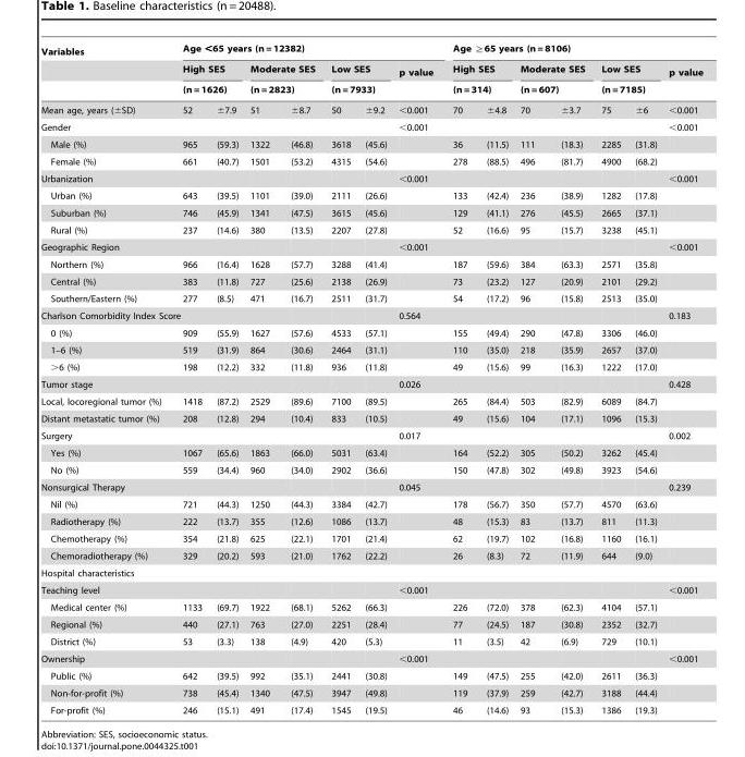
<table><thead><tr><td rowspan="4">Variables Mean age, years (±SD)</td><td colspan="7">Age &lt;65 years (n = 12382)</td><td colspan="7">Age ≧65 years (n = 8106)</td></tr><tr><td rowspan="2" colspan="2">High SES (n = 1626)</td><td rowspan="2" colspan="2">Moderate SES (n = 2823)</td><td rowspan="2" colspan="2">Low SES (n = 7933)</td><td rowspan="3">p value &lt;0.001</td><td rowspan="2" colspan="2">High SES (n = 314)</td><td rowspan="2" colspan="2">Moderate SES (n = 607)</td><td rowspan="2" colspan="2">Low SES (n = 7185)</td><td rowspan="3">p value &lt;0.001</td></tr><tr></tr><tr><td>52</td><td>±7.9</td><td>51</td><td>±8.7</td><td>50</td><td>±9.2</td><td>70</td><td>±4.8</td><td>70</td><td>±3.7</td><td>75</td><td>±6</td></tr></thead><tbody><tr><td>Gender</td><td></td><td></td><td></td><td></td><td></td><td></td><td>&lt;0.001</td><td></td><td></td><td></td><td></td><td></td><td></td><td>&lt;0.001</td></tr><tr><td>Male (%)</td><td>965</td><td>(59.3)</td><td>1322</td><td>(46.8)</td><td>3618</td><td>(45.6)</td><td></td><td>36</td><td>(11.5)</td><td>111</td><td>(18.3)</td><td>2285</td><td>(31.8)</td><td></td></tr><tr><td>Female (%)</td><td>661</td><td>(40.7)</td><td>1501</td><td>(53.2)</td><td>4315</td><td>(54.6)</td><td></td><td>278</td><td>(88.5)</td><td>496</td><td>(81.7)</td><td>4900</td><td>(68.2)</td><td></td></tr><tr><td>Urbanization</td><td></td><td></td><td></td><td></td><td></td><td></td><td>&lt;0.001</td><td></td><td></td><td></td><td></td><td></td><td></td><td>&lt;0.001</td></tr><tr><td>Urban (%)</td><td>643</td><td>(39.5)</td><td>1101</td><td>(39.0)</td><td>2111</td><td>(26.6)</td><td></td><td>133</td><td>(42.4)</td><td>236</td><td>(38.9)</td><td>1282</td><td>(17.8)</td><td></td></tr><tr><td>Suburban (%)</td><td>746</td><td>(45.9)</td><td>1341</td><td>(47.5)</td><td>3615</td><td>(45.6)</td><td></td><td>129</td><td>(41.1)</td><td>276</td><td>(45.5)</td><td>2665</td><td>(37.1)</td><td></td></tr><tr><td>Rural (%)</td><td>237</td><td>(14.6)</td><td>380</td><td>(13.5)</td><td>2207</td><td>(27.8)</td><td></td><td>52</td><td>(16.6)</td><td>95</td><td>(15.7)</td><td>3238</td><td>(45.1)</td><td></td></tr><tr><td>Geographic Region</td><td></td><td></td><td></td><td></td><td></td><td></td><td>&lt;0.001</td><td></td><td></td><td></td><td></td><td></td><td></td><td>&lt;0.001</td></tr><tr><td>Northern (%)</td><td>966</td><td>(16.4)</td><td>1628</td><td>(57.7)</td><td>3288</td><td>(41.4)</td><td></td><td>187</td><td>(59.6)</td><td>384</td><td>(63.3)</td><td>2571</td><td>(35.8)</td><td></td></tr><tr><td>Central (%)</td><td>383</td><td>(11.8)</td><td>727</td><td>(25.6)</td><td>2138</td><td>(26.9)</td><td></td><td>73</td><td>(23.2)</td><td>127</td><td>(20.9)</td><td>2101</td><td>(29.2)</td><td></td></tr><tr><td>Southern/Eastern (%)</td><td>277</td><td>(8.5)</td><td>471</td><td>(16.7)</td><td>2511</td><td>(31.7)</td><td></td><td>54</td><td>(17.2)</td><td>96</td><td>(15.8)</td><td>2513</td><td>(35.0)</td><td></td></tr><tr><td>Charlson Comorbidity Index Score</td><td></td><td></td><td></td><td></td><td></td><td></td><td>0.564</td><td></td><td></td><td></td><td></td><td></td><td></td><td>0.183</td></tr><tr><td>0 (%)</td><td>909</td><td>(55.9)</td><td>1627</td><td>(57.6)</td><td>4533</td><td>(57.1)</td><td></td><td>155</td><td>(49.4)</td><td>290</td><td>(47.8)</td><td>3306</td><td>(46.0)</td><td></td></tr><tr><td>1–6 (%)</td><td>519</td><td>(31.9)</td><td>864</td><td>(30.6)</td><td>2464</td><td>(31.1)</td><td></td><td>110</td><td>(35.0)</td><td>218</td><td>(35.9)</td><td>2657</td><td>(37.0)</td><td></td></tr><tr><td>&gt;6 (%)</td><td>198</td><td>(12.2)</td><td>332</td><td>(11.8)</td><td>936</td><td>(11.8)</td><td></td><td>49</td><td>(15.6)</td><td>99</td><td>(16.3)</td><td>1222</td><td>(17.0)</td><td></td></tr><tr><td>Tumor stage</td><td></td><td></td><td></td><td></td><td></td><td></td><td>0.026</td><td></td><td></td><td></td><td></td><td></td><td></td><td>0.428</td></tr><tr><td>Local, locoregional tumor (%)</td><td>1418</td><td>(87.2)</td><td>2529</td><td>(89.6)</td><td>7100</td><td>(89.5)</td><td></td><td>265</td><td>(84.4)</td><td>503</td><td>(82.9)</td><td>6089</td><td>(84.7)</td><td></td></tr><tr><td>Distant metastatic tumor (%)</td><td>208</td><td>(12.8)</td><td>294</td><td>(10.4)</td><td>833</td><td>(10.5)</td><td></td><td>49</td><td>(15.6)</td><td>104</td><td>(17.1)</td><td>1096</td><td>(15.3)</td><td></td></tr><tr><td>Surgery</td><td></td><td></td><td></td><td></td><td></td><td></td><td>0.017</td><td></td><td></td><td></td><td></td><td></td><td></td><td>0.002</td></tr><tr><td>Yes (%)</td><td>1067</td><td>(65.6)</td><td>1863</td><td>(66.0)</td><td>5031</td><td>(63.4)</td><td></td><td>164</td><td>(52.2)</td><td>305</td><td>(50.2)</td><td>3262</td><td>(45.4)</td><td></td></tr><tr><td>No (%)</td><td>559</td><td>(34.4)</td><td>960</td><td>(34.0)</td><td>2902</td><td>(36.6)</td><td></td><td>150</td><td>(47.8)</td><td>302</td><td>(49.8)</td><td>3923</td><td>(54.6)</td><td></td></tr><tr><td>Nonsurgical Therapy</td><td></td><td></td><td></td><td></td><td></td><td></td><td>0.045</td><td></td><td></td><td></td><td></td><td></td><td></td><td>0.239</td></tr><tr><td>Nil (%)</td><td>721</td><td>(44.3)</td><td>1250</td><td>(44.3)</td><td>3384</td><td>(42.7)</td><td></td><td>178</td><td>(56.7)</td><td>350</td><td>(57.7)</td><td>4570</td><td>(63.6)</td><td></td></tr><tr><td>Radiotherapy (%)</td><td>222</td><td>(13.7)</td><td>355</td><td>(12.6)</td><td>1086</td><td>(13.7)</td><td></td><td>48</td><td>(15.3)</td><td>83</td><td>(13.7)</td><td>811</td><td>(11.3)</td><td></td></tr><tr><td>Chemotherapy (%)</td><td>354</td><td>(21.8)</td><td>625</td><td>(22.1)</td><td>1701</td><td>(21.4)</td><td></td><td>62</td><td>(19.7)</td><td>102</td><td>(16.8)</td><td>1160</td><td>(16.1)</td><td></td></tr><tr><td>Chemoradiotherapy (%)</td><td>329</td><td>(20.2)</td><td>593</td><td>(21.0)</td><td>1762</td><td>(22.2)</td><td></td><td>26</td><td>(8.3)</td><td>72</td><td>(11.9)</td><td>644</td><td>(9.0)</td><td></td></tr><tr><td colspan="15">Hospital characteristics</td></tr><tr><td>Teaching level</td><td></td><td></td><td></td><td></td><td></td><td></td><td>&lt;0.001</td><td></td><td></td><td></td><td></td><td></td><td></td><td>&lt;0.001</td></tr><tr><td>Medical center (%)</td><td>1133</td><td>(69.7)</td><td>1922</td><td>(68.1)</td><td>5262</td><td>(66.3)</td><td></td><td>226</td><td>(72.0)</td><td>378</td><td>(62.3)</td><td>4104</td><td>(57.1)</td><td></td></tr><tr><td>Regional (%)</td><td>440</td><td>(27.1)</td><td>763</td><td>(27.0)</td><td>2251</td><td>(28.4)</td><td></td><td>77</td><td>(24.5)</td><td>187</td><td>(30.8)</td><td>2352</td><td>(32.7)</td><td></td></tr><tr><td>District (%)</td><td>53</td><td>(3.3)</td><td>138</td><td>(4.9)</td><td>420</td><td>(5.3)</td><td></td><td>11</td><td>(3.5)</td><td>42</td><td>(6.9)</td><td>729</td><td>(10.1)</td><td></td></tr><tr><td>Ownership</td><td></td><td></td><td></td><td></td><td></td><td></td><td>&lt;0.001</td><td></td><td></td><td></td><td></td><td></td><td></td><td>&lt;0.001</td></tr><tr><td>Public (%)</td><td>642</td><td>(39.5)</td><td>992</td><td>(35.1)</td><td>2441</td><td>(30.8)</td><td></td><td>149</td><td>(47.5)</td><td>255</td><td>(42.0)</td><td>2611</td><td>(36.3)</td><td></td></tr><tr><td>Non-for-profit (%)</td><td>738</td><td>(45.4)</td><td>1340</td><td>(47.5)</td><td>3947</td><td>(49.8)</td><td></td><td>119</td><td>(37.9)</td><td>259</td><td>(42.7)</td><td>3188</td><td>(44.4)</td><td></td></tr><tr><td>For-profit (%)</td><td>246</td><td>(15.1)</td><td>491</td><td>(17.4)</td><td>1545</td><td>(19.5)</td><td></td><td>46</td><td>(14.6)</td><td>93</td><td>(15.3)</td><td>1386</td><td>(19.3)</td><td></td></tr></tbody></table>